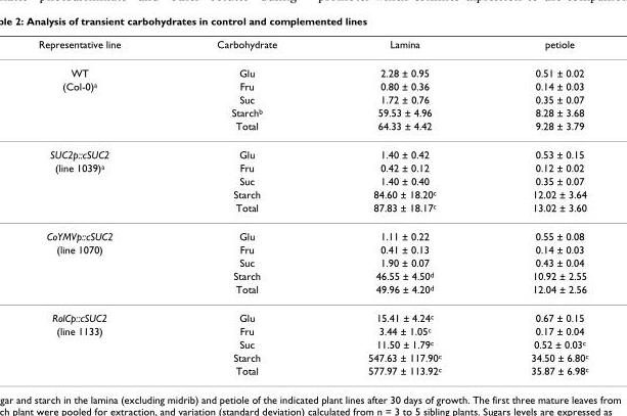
<table><thead><tr><td>Representative line</td><td>Carbohydrate</td><td>Lamina</td><td>petiole</td></tr></thead><tbody><tr><td>WT</td><td>Glu</td><td>2.28 ± 0.95</td><td>0.51 ± 0.02</td></tr><tr><td rowspan="4">(Col-0)<sup>a</sup></td><td>Fru</td><td>0.80 ± 0.36</td><td>0.14 ± 0.03</td></tr><tr><td>Suc</td><td>1.72 ± 0.76</td><td>0.35 ± 0.07</td></tr><tr><td>Starch<sup>b</sup></td><td>59.53 ± 4.96</td><td>8.28 ± 3.68</td></tr><tr><td>Total</td><td>64.33 ± 4.42</td><td>9.28 ± 3.79</td></tr><tr><td>SUC2p::cSUC2</td><td>Glu</td><td>1.40 ± 0.42</td><td>0.53 ± 0.15</td></tr><tr><td rowspan="4">(line 1039)<sup>a</sup></td><td>Fru</td><td>0.42 ± 0.12</td><td>0.12 ± 0.02</td></tr><tr><td>Suc</td><td>1.40 ± 0.40</td><td>0.35 ± 0.07</td></tr><tr><td>Starch</td><td>84.60 ± 18.20<sup>c</sup></td><td>12.02 ± 3.64</td></tr><tr><td>Total</td><td>87.83 ± 18.17<sup>c</sup></td><td>13.02 ± 3.60</td></tr><tr><td>CoYMVp::cSUC2</td><td>Glu</td><td>1.11 ± 0.22</td><td>0.55 ± 0.08</td></tr><tr><td rowspan="4">(line 1070)</td><td>Fru</td><td>0.41 ± 0.13</td><td>0.14 ± 0.03</td></tr><tr><td>Suc</td><td>1.90 ± 0.07</td><td>0.43 ± 0.04</td></tr><tr><td>Starch</td><td>46.55 ± 4.50<sup>d</sup></td><td>10.92 ± 2.55</td></tr><tr><td>Total</td><td>49.96 ± 4.20<sup>d</sup></td><td>12.04 ± 2.56</td></tr><tr><td>RolCp::cSUC2</td><td>Glu</td><td>15.41 ± 4.24<sup>c</sup></td><td>0.67 ± 0.15</td></tr><tr><td rowspan="4">(line 1133)</td><td>Fru</td><td>3.44 ± 1.05<sup>c</sup></td><td>0.17 ± 0.04</td></tr><tr><td>Suc</td><td>11.50 ± 1.79<sup>c</sup></td><td>0.52 ± 0.03<sup>c</sup></td></tr><tr><td>Starch</td><td>547.63 ± 117.90<sup>c</sup></td><td>34.50 ± 6.80<sup>c</sup></td></tr><tr><td>Total</td><td>577.97 ± 113.92<sup>c</sup></td><td>35.87 ± 6.98<sup>c</sup></td></tr></tbody></table>